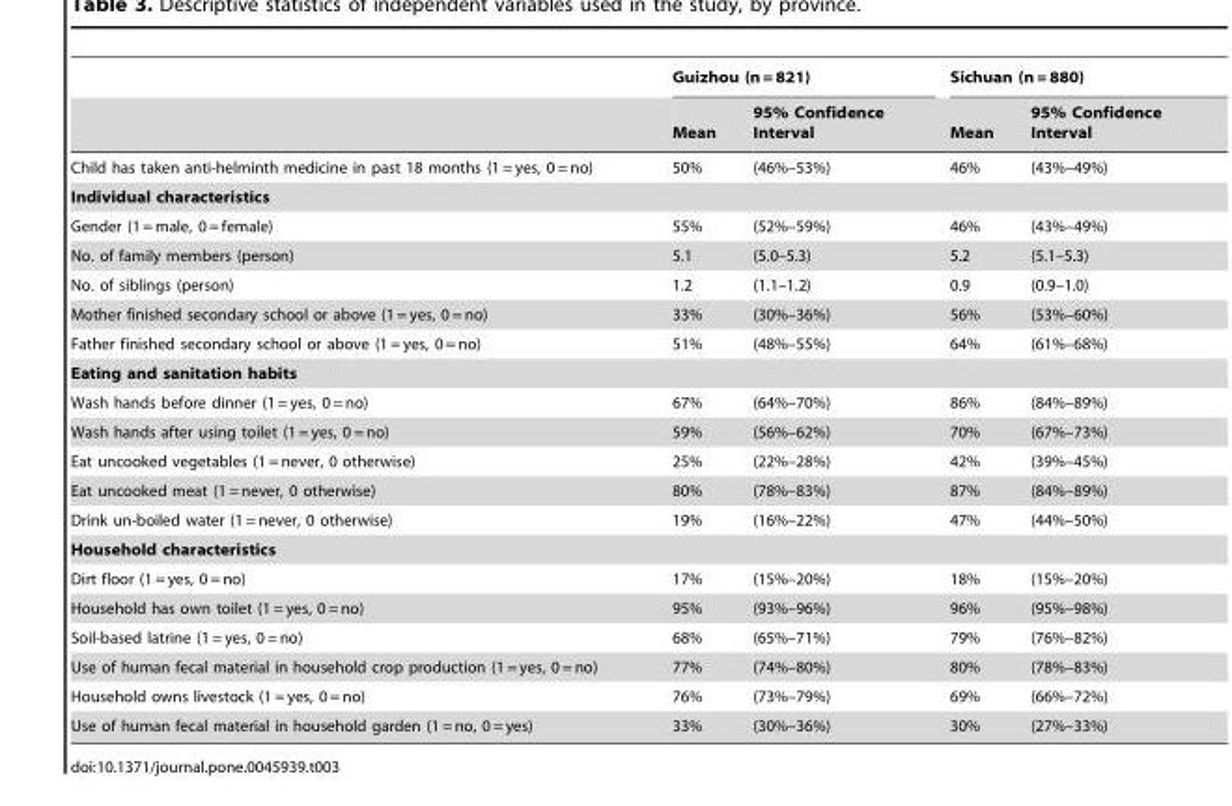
<table><thead><tr><td rowspan="2"></td><td colspan="2">Guizhou (n = 821)</td><td colspan="2">Sichuan (n = 880)</td></tr><tr><td>Mean</td><td>95% Confidence Interval</td><td>Mean</td><td>95% Confidence Interval</td></tr></thead><tbody><tr><td>Child has taken anti-helminth medicine in past 18 months (1 = yes, 0 = no)</td><td>50%</td><td>(46%–53%)</td><td>46%</td><td>(43%–49%)</td></tr><tr><td colspan="5">Individual characteristics</td></tr><tr><td>Gender (1 = male, 0 = female)</td><td>55%</td><td>(52%–59%)</td><td>46%</td><td>(43%–49%)</td></tr><tr><td>No. of family members (person)</td><td>5.1</td><td>(5.0–5.3)</td><td>5.2</td><td>(5.1–5.3)</td></tr><tr><td>No. of siblings (person)</td><td>1.2</td><td>(1.1–1.2)</td><td>0.9</td><td>(0.9–1.0)</td></tr><tr><td>Mother finished secondary school or above (1 = yes, 0 = no)</td><td>33%</td><td>(30%–36%)</td><td>56%</td><td>(53%–60%)</td></tr><tr><td>Father finished secondary school or above (1 = yes, 0 = no)</td><td>51%</td><td>(48%–55%)</td><td>64%</td><td>(61%–68%)</td></tr><tr><td colspan="5">Eating and sanitation habits</td></tr><tr><td>Wash hands before dinner (1 = yes, 0 = no)</td><td>67%</td><td>(64%–70%)</td><td>86%</td><td>(84%–89%)</td></tr><tr><td>Wash hands after using toilet (1 = yes, 0 = no)</td><td>59%</td><td>(56%–62%)</td><td>70%</td><td>(67%–73%)</td></tr><tr><td>Eat uncooked vegetables (1 = never, 0 otherwise)</td><td>25%</td><td>(22%–28%)</td><td>42%</td><td>(39%–45%)</td></tr><tr><td>Eat uncooked meat (1 = never, 0 otherwise)</td><td>80%</td><td>(78%–83%)</td><td>87%</td><td>(84%–89%)</td></tr><tr><td>Drink un-boiled water (1 = never, 0 otherwise)</td><td>19%</td><td>(16%–22%)</td><td>47%</td><td>(44%–50%)</td></tr><tr><td colspan="5">Household characteristics</td></tr><tr><td>Dirt floor (1 = yes, 0 = no)</td><td>17%</td><td>(15%–20%)</td><td>18%</td><td>(15%–20%)</td></tr><tr><td>Household has own toilet (1 = yes, 0 = no)</td><td>95%</td><td>(93%–96%)</td><td>96%</td><td>(95%–98%)</td></tr><tr><td>Soil-based latrine (1 = yes, 0 = no)</td><td>68%</td><td>(65%–71%)</td><td>79%</td><td>(76%–82%)</td></tr><tr><td>Use of human fecal material in household crop production (1 = yes, 0 = no)</td><td>77%</td><td>(74%–80%)</td><td>80%</td><td>(78%–83%)</td></tr><tr><td>Household owns livestock (1 = yes, 0 = no)</td><td>76%</td><td>(73%–79%)</td><td>69%</td><td>(66%–72%)</td></tr><tr><td>Use of human fecal material in household garden (1 = no, 0 = yes)</td><td>33%</td><td>(30%–36%)</td><td>30%</td><td>(27%–33%)</td></tr></tbody></table>